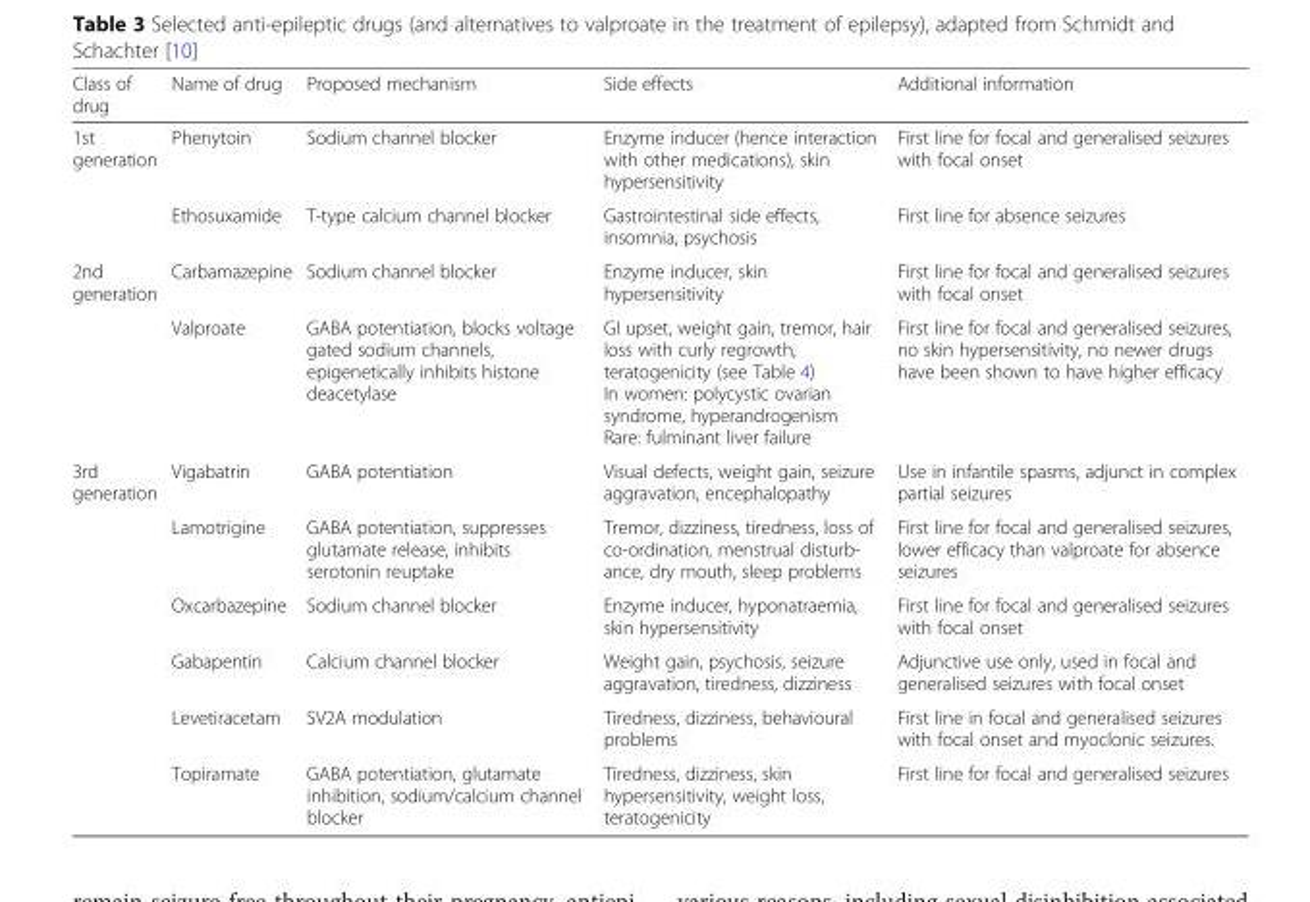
<table><thead><tr><td>Class of drug</td><td>Name of drug</td><td>Proposed mechanism</td><td>Side effects</td><td>Additional information</td></tr></thead><tbody><tr><td rowspan="2">1st generation</td><td>Phenytoin</td><td>Sodium channel blocker</td><td>Enzyme inducer (hence interaction with other medications), skin hypersensitivity</td><td>First line for focal and generalised seizures with focal onset</td></tr><tr><td>Ethosuxamide</td><td>T-type calcium channel blocker</td><td>Gastrointestinal side effects, insomnia, psychosis</td><td>First line for absence seizures</td></tr><tr><td rowspan="2">2nd generation</td><td>Carbamazepine</td><td>Sodium channel blocker</td><td>Enzyme inducer, skin hypersensitivity</td><td>First line for focal and generalised seizures with focal onset</td></tr><tr><td>Valproate</td><td>GABA potentiation, blocks voltage gated sodium channels, epigenetically inhibits histone deacetylase</td><td>GI upset, weight gain, tremor, hair loss with curly regrowth, teratogenicity (see Table 4) In women: polycystic ovarian syndrome, hyperandrogenism Rare: fulminant liver failure</td><td>First line for focal and generalised seizures, no skin hypersensitivity, no newer drugs have been shown to have higher efficacy</td></tr><tr><td rowspan="6">3rd generation</td><td>Vigabatrin</td><td>GABA potentiation</td><td>Visual defects, weight gain, seizure aggravation, encephalopathy</td><td>Use in infantile spasms, adjunct in complex partial seizures</td></tr><tr><td>Lamotrigine</td><td>GABA potentiation, suppresses glutamate release, inhibits serotonin reuptake</td><td>Tremor, dizziness, tiredness, loss of co-ordination, menstrual disturb- ance, dry mouth, sleep problems</td><td>First line for focal and generalised seizures, lower efficacy than valproate for absence seizures</td></tr><tr><td>Oxcarbazepine</td><td>Sodium channel blocker</td><td>Enzyme inducer, hyponatraemia, skin hypersensitivity</td><td>First line for focal and generalised seizures with focal onset</td></tr><tr><td>Gabapentin</td><td>Calcium channel blocker</td><td>Weight gain, psychosis, seizure aggravation, tiredness, dizziness</td><td>Adjunctive use only, used in focal and generalised seizures with focal onset</td></tr><tr><td>Levetiracetam</td><td>SV2A modulation</td><td>Tiredness, dizziness, behavioural problems</td><td>First line in focal and generalised seizures with focal onset and myoclonic seizures.</td></tr><tr><td>Topiramate</td><td>GABA potentiation, glutamate inhibition, sodium/calcium channel blocker</td><td>Tiredness, dizziness, skin hypersensitivity, weight loss, teratogenicity</td><td>First line for focal and generalised seizures</td></tr></tbody></table>